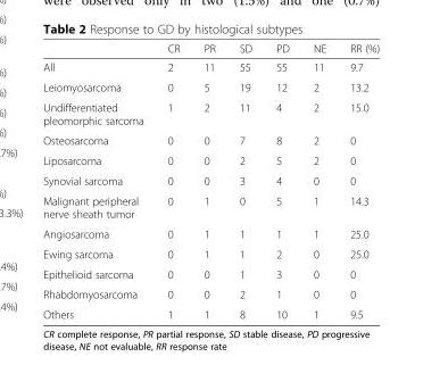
<table><thead><tr><td></td><td>CR</td><td>PR</td><td>SD</td><td>PD</td><td>NE</td><td>RR (%)</td></tr></thead><tbody><tr><td>All</td><td>2</td><td>11</td><td>55</td><td>55</td><td>11</td><td>9.7</td></tr><tr><td>Leiomyosarcoma</td><td>0</td><td>5</td><td>19</td><td>12</td><td>2</td><td>13.2</td></tr><tr><td>Undifferentiated pleomorphic sarcoma</td><td>1</td><td>2</td><td>11</td><td>4</td><td>2</td><td>15.0</td></tr><tr><td>Osteosarcoma</td><td>0</td><td>0</td><td>7</td><td>8</td><td>2</td><td>0</td></tr><tr><td>Liposarcoma</td><td>0</td><td>0</td><td>2</td><td>5</td><td>2</td><td>0</td></tr><tr><td>Synovial sarcoma</td><td>0</td><td>0</td><td>3</td><td>4</td><td>0</td><td>0</td></tr><tr><td>Malignant peripheral nerve sheath tumor</td><td>0</td><td>1</td><td>0</td><td>5</td><td>1</td><td>14.3</td></tr><tr><td>Angiosarcoma</td><td>0</td><td>1</td><td>1</td><td>1</td><td>1</td><td>25.0</td></tr><tr><td>Ewing sarcoma</td><td>0</td><td>1</td><td>1</td><td>2</td><td>0</td><td>25.0</td></tr><tr><td>Epithelioid sarcoma</td><td>0</td><td>0</td><td>1</td><td>3</td><td>0</td><td>0</td></tr><tr><td>Rhabdomyosarcoma</td><td>0</td><td>0</td><td>2</td><td>1</td><td>0</td><td>0</td></tr><tr><td>Others</td><td>1</td><td>1</td><td>8</td><td>10</td><td>1</td><td>9.5</td></tr></tbody></table>